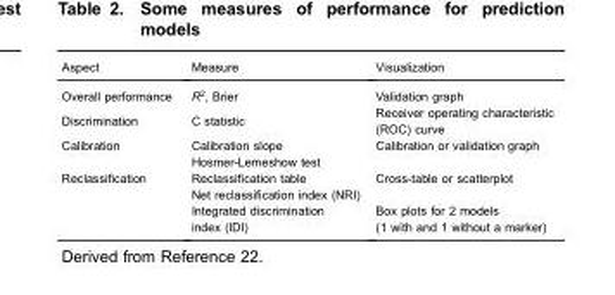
<table><thead><tr><td>Aspect</td><td>Measure</td><td>Visualization</td></tr></thead><tbody><tr><td>Overall performance</td><td>R<sup>2</sup>, Brier</td><td>Validation graph</td></tr><tr><td>Discrimination</td><td>C statistic</td><td>Receiver operating characteristic (ROC) curve</td></tr><tr><td rowspan="2">Calibration</td><td>Calibration slope</td><td>Calibration or validation graph</td></tr><tr><td>Hosmer-Lemeshow test</td><td></td></tr><tr><td rowspan="3">Reclassification</td><td>Reclassification table</td><td>Cross-table or scatterplot</td></tr><tr><td>Net reclassification index (NRI)</td><td></td></tr><tr><td>Integrated discrimination index (IDI)</td><td>Box plots for 2 models (1 with and 1 without a marker)</td></tr></tbody></table>